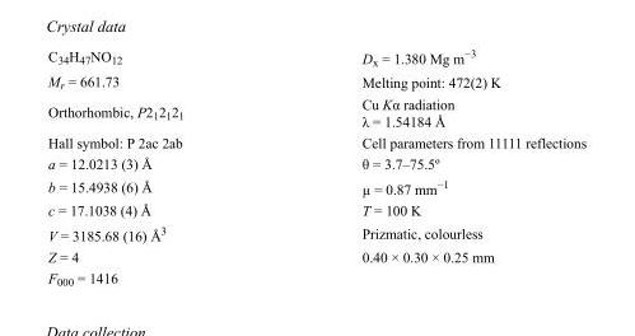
<table><tbody><tr><td>C<sub>34</sub>H<sub>47</sub>NO<sub>12</sub></td><td>D<sub>x</sub> = 1.380 Mg m<sup>−3</sup></td></tr><tr><td>M<sub>r</sub> = 661.73</td><td>Melting point: 472(2) K</td></tr><tr><td>Orthorhombic, P2<sub>1</sub>2<sub>1</sub>2<sub>1</sub></td><td>Cu Kα radiation λ = 1.54184 Å</td></tr><tr><td>Hall symbol: P 2ac 2ab</td><td>Cell parameters from 11111 reflections</td></tr><tr><td>a = 12.0213 (3) Å</td><td>θ = 3.7–75.5º</td></tr><tr><td>b = 15.4938 (6) Å</td><td>µ = 0.87 mm<sup>−1</sup></td></tr><tr><td>c = 17.1038 (4) Å</td><td>T = 100 K</td></tr><tr><td>V = 3185.68 (16) Å<sup>3</sup></td><td>Prizmatic, colourless</td></tr><tr><td>Z = 4</td><td>0.40 × 0.30 × 0.25 mm</td></tr><tr><td>F000 = 1416</td><td></td></tr></tbody></table>